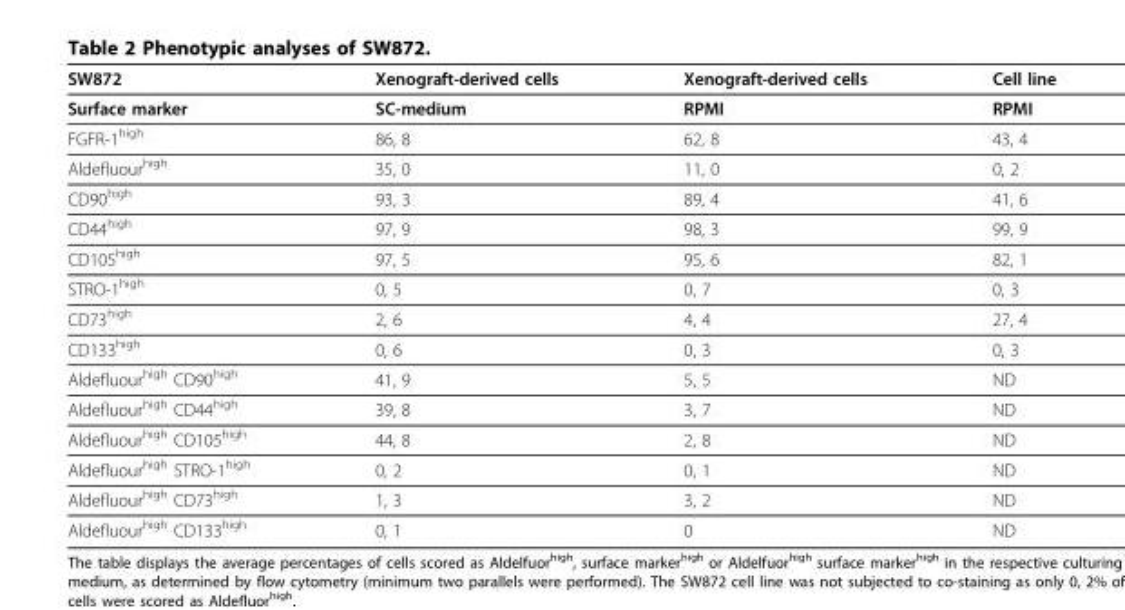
<table><thead><tr><td>SW872</td><td>Xenograft-derived cells</td><td>Xenograft-derived cells</td><td>Cell line</td></tr></thead><tbody><tr><td>Surface marker</td><td>SC-medium</td><td>RPMI</td><td>RPMI</td></tr><tr><td>FGFR-1<sup>high</sup></td><td>86, 8</td><td>62, 8</td><td>43, 4</td></tr><tr><td>Aldefluour<sup>high</sup></td><td>35, 0</td><td>11, 0</td><td>0, 2</td></tr><tr><td>CD90<sup>high</sup></td><td>93, 3</td><td>89, 4</td><td>41, 6</td></tr><tr><td>CD44<sup>high</sup></td><td>97, 9</td><td>98, 3</td><td>99, 9</td></tr><tr><td>CD105<sup>high</sup></td><td>97, 5</td><td>95, 6</td><td>82, 1</td></tr><tr><td>STRO-1<sup>high</sup></td><td>0, 5</td><td>0, 7</td><td>0, 3</td></tr><tr><td>CD73<sup>high</sup></td><td>2, 6</td><td>4, 4</td><td>27, 4</td></tr><tr><td>CD133<sup>high</sup></td><td>0, 6</td><td>0, 3</td><td>0, 3</td></tr><tr><td>Aldefluour<sup>high</sup> CD90<sup>high</sup></td><td>41, 9</td><td>5, 5</td><td>ND</td></tr><tr><td>Aldefluour<sup>high</sup> CD44<sup>high</sup></td><td>39, 8</td><td>3, 7</td><td>ND</td></tr><tr><td>Aldefluour<sup>high</sup> CD105<sup>high</sup></td><td>44, 8</td><td>2, 8</td><td>ND</td></tr><tr><td>Aldefluour<sup>high</sup> STRO-1<sup>high</sup></td><td>0, 2</td><td>0, 1</td><td>ND</td></tr><tr><td>Aldefluour<sup>high</sup> CD73<sup>high</sup></td><td>1, 3</td><td>3, 2</td><td>ND</td></tr><tr><td>Aldefluour<sup>high</sup> CD133<sup>high</sup></td><td>0, 1</td><td>0</td><td>ND</td></tr></tbody></table>